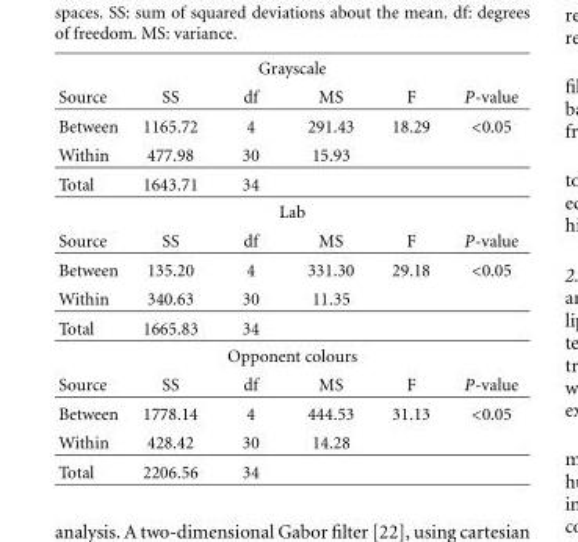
<table><thead><tr><td colspan="6">Grayscale</td></tr><tr><td>Source</td><td>SS</td><td>df</td><td>MS</td><td>F</td><td>P-value</td></tr></thead><tbody><tr><td>Between</td><td>1165.72</td><td>4</td><td>291.43</td><td>18.29</td><td>&lt;0.05</td></tr><tr><td>Within</td><td>477.98</td><td>30</td><td>15.93</td><td></td><td></td></tr><tr><td>Total</td><td>1643.71</td><td>34</td><td></td><td></td><td></td></tr><tr><td colspan="6">Lab</td></tr><tr><td>Source</td><td>SS</td><td>df</td><td>MS</td><td>F</td><td>P-value</td></tr><tr><td>Between</td><td>135.20</td><td>4</td><td>331.30</td><td>29.18</td><td>&lt;0.05</td></tr><tr><td>Within</td><td>340.63</td><td>30</td><td>11.35</td><td></td><td></td></tr><tr><td>Total</td><td>1665.83</td><td>34</td><td></td><td></td><td></td></tr><tr><td colspan="6">Opponent colours</td></tr><tr><td>Source</td><td>SS</td><td>df</td><td>MS</td><td>F</td><td>P-value</td></tr><tr><td>Between</td><td>1778.14</td><td>4</td><td>444.53</td><td>31.13</td><td>&lt;0.05</td></tr><tr><td>Within</td><td>428.42</td><td>30</td><td>14.28</td><td></td><td></td></tr><tr><td>Total</td><td>2206.56</td><td>34</td><td></td><td></td><td></td></tr></tbody></table>